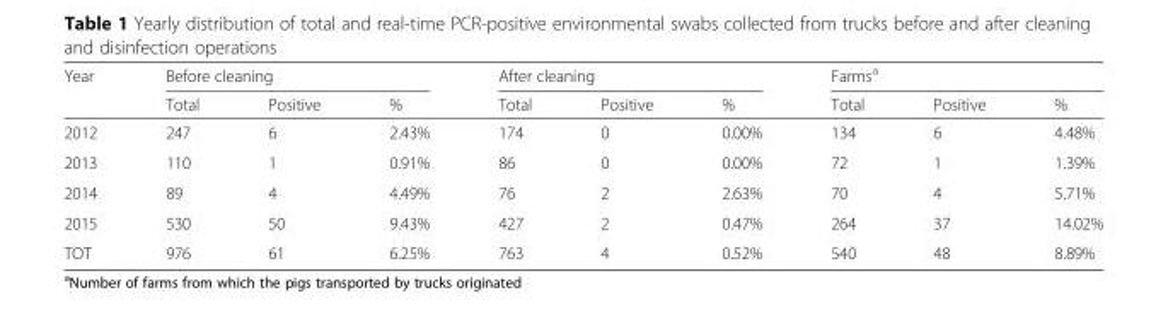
<table><thead><tr><td rowspan="2">Year</td><td colspan="3">Before cleaning</td><td colspan="3">After cleaning</td><td colspan="3">Farms<sup>a</sup></td></tr><tr><td>Total</td><td>Positive</td><td>%</td><td>Total</td><td>Positive</td><td>%</td><td>Total</td><td>Positive</td><td>%</td></tr></thead><tbody><tr><td>2012</td><td>247</td><td>6</td><td>2.43%</td><td>174</td><td>0</td><td>0.00%</td><td>134</td><td>6</td><td>4.48%</td></tr><tr><td>2013</td><td>110</td><td>1</td><td>0.91%</td><td>86</td><td>0</td><td>0.00%</td><td>72</td><td>1</td><td>1.39%</td></tr><tr><td>2014</td><td>89</td><td>4</td><td>4.49%</td><td>76</td><td>2</td><td>2.63%</td><td>70</td><td>4</td><td>5.71%</td></tr><tr><td>2015</td><td>530</td><td>50</td><td>9.43%</td><td>427</td><td>2</td><td>0.47%</td><td>264</td><td>37</td><td>14.02%</td></tr><tr><td>TOT</td><td>976</td><td>61</td><td>6.25%</td><td>763</td><td>4</td><td>0.52%</td><td>540</td><td>48</td><td>8.89%</td></tr></tbody></table>